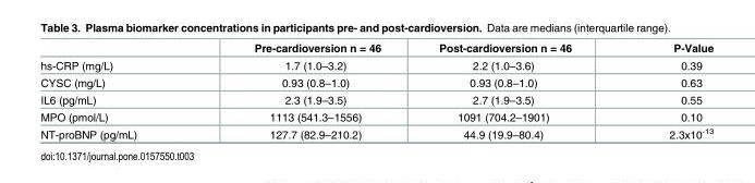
<table><thead><tr><td></td><td>Pre-cardioversion n = 46</td><td>Post-cardioversion n = 46</td><td>P-Value</td></tr></thead><tbody><tr><td>hs-CRP (mg/L)</td><td>1.7 (1.0–3.2)</td><td>2.2 (1.0–3.6)</td><td>0.39</td></tr><tr><td>CYSC (mg/L)</td><td>0.93 (0.8–1.0)</td><td>0.93 (0.8–1.0)</td><td>0.63</td></tr><tr><td>IL6 (pg/mL)</td><td>2.3 (1.9–3.5)</td><td>2.7 (1.9–3.5)</td><td>0.55</td></tr><tr><td>MPO (pmol/L)</td><td>1113 (541.3–1556)</td><td>1091 (704.2–1901)</td><td>0.10</td></tr><tr><td>NT-proBNP (pg/mL)</td><td>127.7 (82.9–210.2)</td><td>44.9 (19.9–80.4)</td><td>2.3x10<sup>-13</sup></td></tr></tbody></table>